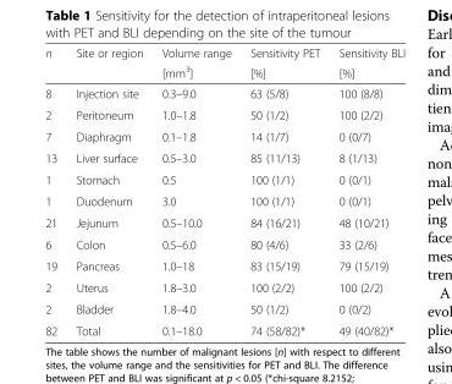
<table><thead><tr><td rowspan="2">n</td><td rowspan="2">Site or region</td><td rowspan="2">Volume range [mm<sup>3</sup>]</td><td rowspan="2">Sensitivity PET [%]</td><td rowspan="2">Sensitivity BLI [%]</td></tr><tr></tr></thead><tbody><tr><td>8</td><td>Injection site</td><td>0.3–9.0</td><td>63 (5/8)</td><td>100 (8/8)</td></tr><tr><td>2</td><td>Peritoneum</td><td>1.0–1.8</td><td>50 (1/2)</td><td>100 (2/2)</td></tr><tr><td>7</td><td>Diaphragm</td><td>0.1–1.8</td><td>14 (1/7)</td><td>0 (0/7)</td></tr><tr><td>13</td><td>Liver surface</td><td>0.5–3.0</td><td>85 (11/13)</td><td>8 (1/13)</td></tr><tr><td>1</td><td>Stomach</td><td>0.5</td><td>100 (1/1)</td><td>0 (0/1)</td></tr><tr><td>1</td><td>Duodenum</td><td>3.0</td><td>100 (1/1)</td><td>0 (0/1)</td></tr><tr><td>21</td><td>Jejunum</td><td>0.5–10.0</td><td>84 (16/21)</td><td>48 (10/21)</td></tr><tr><td>6</td><td>Colon</td><td>0.5–6.0</td><td>80 (4/6)</td><td>33 (2/6)</td></tr><tr><td>19</td><td>Pancreas</td><td>1.0–18</td><td>83 (15/19)</td><td>79 (15/19)</td></tr><tr><td>2</td><td>Uterus</td><td>1.8–3.0</td><td>100 (2/2)</td><td>100 (2/2)</td></tr><tr><td>2</td><td>Bladder</td><td>1.8–4.0</td><td>50 (1/2)</td><td>0 (0/2)</td></tr><tr><td>82</td><td>Total</td><td>0.1–18.0</td><td>74 (58/82)*</td><td>49 (40/82)*</td></tr></tbody></table>